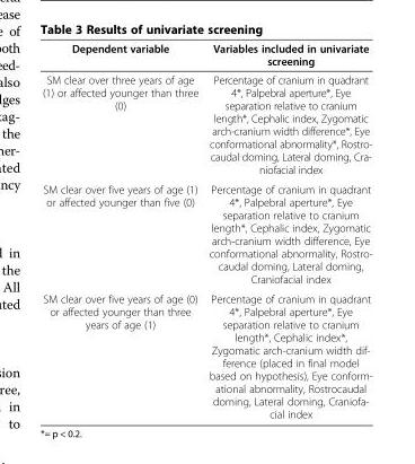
<table><thead><tr><td>Dependent variable</td><td>Variables included in univariate screening</td></tr></thead><tbody><tr><td>SM clear over three years of age (1) or affected younger than three (0)</td><td>Percentage of cranium in quadrant 4*, Palpebral aperture*, Eye separation relative to cranium length*, Cephalic index, Zygomatic arch-cranium width difference*, Eye conformational abnormality*, Rostro- caudal doming, Lateral doming, Cra- niofacial index</td></tr><tr><td>SM clear over five years of age (1) or affected younger than five (0)</td><td>Percentage of cranium in quadrant 4*, Palpebral aperture*, Eye separation relative to cranium length*, Cephalic index, Zygomatic arch-cranium width difference, Eye conformational abnormality, Rostro- caudal doming, Lateral doming, Craniofacial index</td></tr><tr><td>SM clear over five years of age (0) or affected younger than three years of age (1)</td><td>Percentage of cranium in quadrant 4*, Palpebral aperture*, Eye separation relative to cranium length*, Cephalic index*, Zygomatic arch-cranium width dif- ference (placed in final model based on hypothesis), Eye conform- ational abnormality, Rostrocaudal doming, Lateral doming, Craniofa- cial index</td></tr></tbody></table>